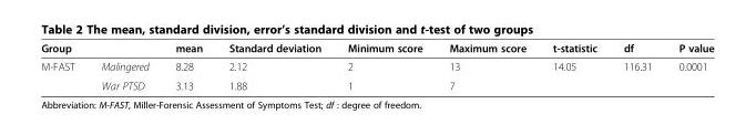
<table><thead><tr><td colspan="2">Group</td><td rowspan="2">mean 8.28</td><td rowspan="2">Standard deviation 2.12</td><td rowspan="2">Minimum score 2</td><td rowspan="2">Maximum score 13</td><td rowspan="2">t-statistic 14.05</td><td rowspan="2">df 116.31</td><td rowspan="2">P value 0.0001</td></tr><tr><td>M-FAST</td><td>Malingered</td></tr></thead><tbody><tr><td></td><td>War PTSD</td><td>3.13</td><td>1.88</td><td>1</td><td>7</td><td></td><td></td><td></td></tr></tbody></table>